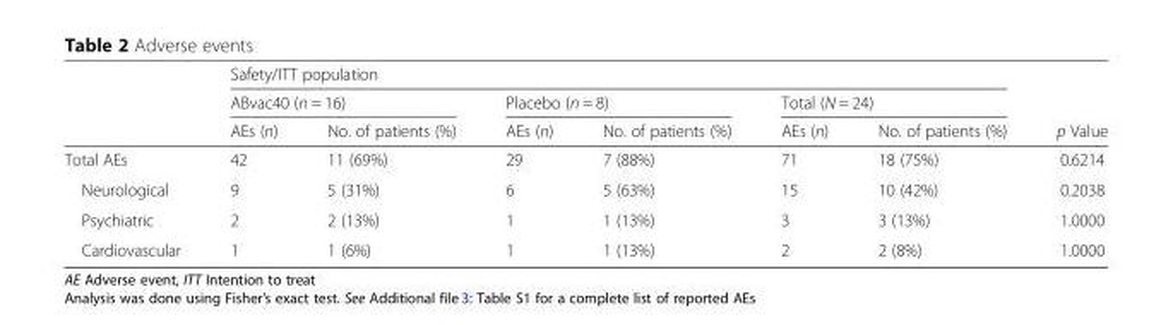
<table><thead><tr><td rowspan="3"></td><td colspan="6">Safety/ITT population</td><td rowspan="3">p Value</td></tr><tr><td colspan="2">ABvac40 (n = 16)</td><td colspan="2">Placebo (n = 8)</td><td colspan="2">Total (N = 24)</td></tr><tr><td>AEs (n)</td><td>No. of patients (%)</td><td>AEs (n)</td><td>No. of patients (%)</td><td>AEs (n)</td><td>No. of patients (%)</td></tr></thead><tbody><tr><td>Total AEs</td><td>42</td><td>11 (69%)</td><td>29</td><td>7 (88%)</td><td>71</td><td>18 (75%)</td><td>0.6214</td></tr><tr><td>Neurological</td><td>9</td><td>5 (31%)</td><td>6</td><td>5 (63%)</td><td>15</td><td>10 (42%)</td><td>0.2038</td></tr><tr><td>Psychiatric</td><td>2</td><td>2 (13%)</td><td>1</td><td>1 (13%)</td><td>3</td><td>3 (13%)</td><td>1.0000</td></tr><tr><td>Cardiovascular</td><td>1</td><td>1 (6%)</td><td>1</td><td>1 (13%)</td><td>2</td><td>2 (8%)</td><td>1.0000</td></tr></tbody></table>